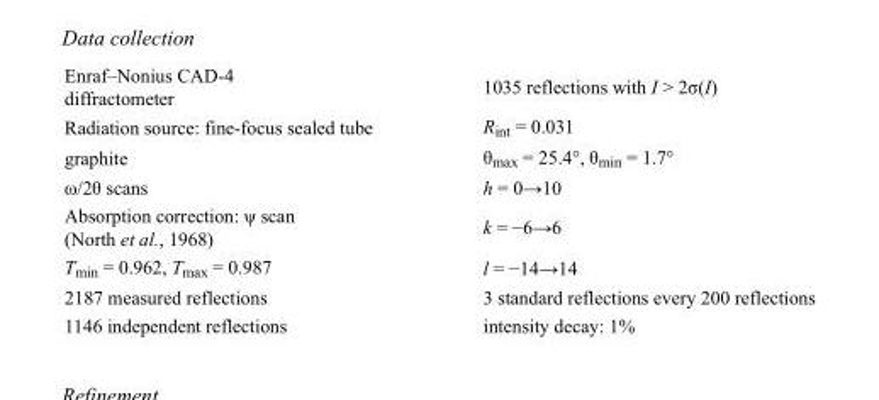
<table><tbody><tr><td>Enraf–Nonius CAD-4 diffractometer</td><td>1035 reflections with I &gt; 2σ(I)</td></tr><tr><td>Radiation source: fine-focus sealed tube</td><td>R<sub>int</sub> = 0.031</td></tr><tr><td>graphite</td><td>θ<sub>max</sub> = 25.4°, θ<sub>min</sub> = 1.7°</td></tr><tr><td>ω/2θ scans</td><td>h = 0→10</td></tr><tr><td>Absorption correction: ψ scan (North et al., 1968)</td><td>k = −6→6</td></tr><tr><td>T<sub>min</sub> = 0.962, T<sub>max</sub> = 0.987</td><td>l = −14→14</td></tr><tr><td>2187 measured reflections</td><td>3 standard reflections every 200 reflections</td></tr><tr><td>1146 independent reflections</td><td>intensity decay: 1%</td></tr></tbody></table>